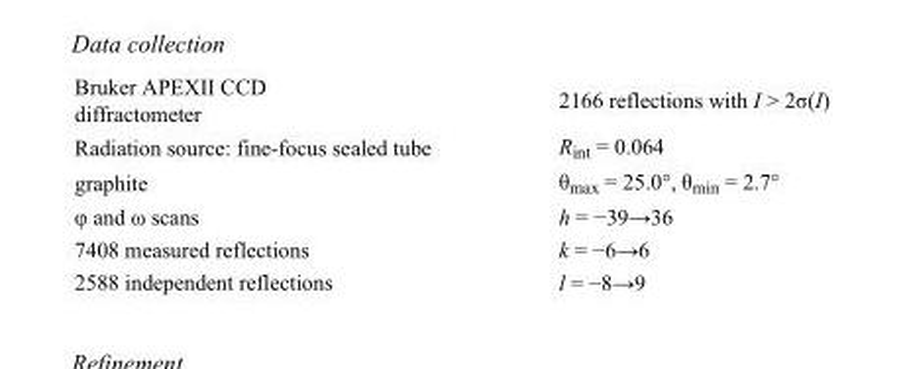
<table><tbody><tr><td>Bruker APEXII CCD diffractometer</td><td>2166 reflections with I &gt; 2σ(I)</td></tr><tr><td>Radiation source: fine-focus sealed tube</td><td>R<sub>int</sub> = 0.064</td></tr><tr><td>graphite</td><td>θ<sub>max</sub> = 25.0°, θ<sub>min</sub> = 2.7°</td></tr><tr><td>φ and ω scans</td><td>h = −39→36</td></tr><tr><td>7408 measured reflections</td><td>k = −6→6</td></tr><tr><td>2588 independent reflections</td><td>l = −8→9</td></tr></tbody></table>